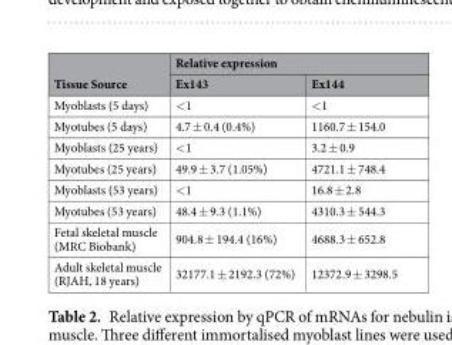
<table><thead><tr><td rowspan="2">Tissue Source</td><td colspan="2">Relative expression</td></tr><tr><td>Ex143</td><td>Ex144</td></tr></thead><tbody><tr><td>Myoblasts (5 days)</td><td>&lt;1</td><td>&lt;1</td></tr><tr><td>Myotubes (5 days)</td><td>4.7 ± 0.4 (0.4%)</td><td>1160.7 ± 154.0</td></tr><tr><td>Myoblasts (25 years)</td><td>&lt;1</td><td>3.2 ± 0.9</td></tr><tr><td>Myotubes (25 years)</td><td>49.9 ± 3.7 (1.05%)</td><td>4721.1 ± 748.4</td></tr><tr><td>Myoblasts (53 years)</td><td>&lt;1</td><td>16.8 ± 2.8</td></tr><tr><td>Myotubes (53 years)</td><td>48.4 ± 9.3 (1.1%)</td><td>4310.3 ± 544.3</td></tr><tr><td>Fetal skeletal muscle (MRC Biobank)</td><td>904.8 ± 194.4 (16%)</td><td>4688.3 ± 652.8</td></tr><tr><td>Adult skeletal muscle (RJAH, 18 years)</td><td>32177.1 ± 2192.3 (72%)</td><td>12372.9 ± 3298.5</td></tr></tbody></table>